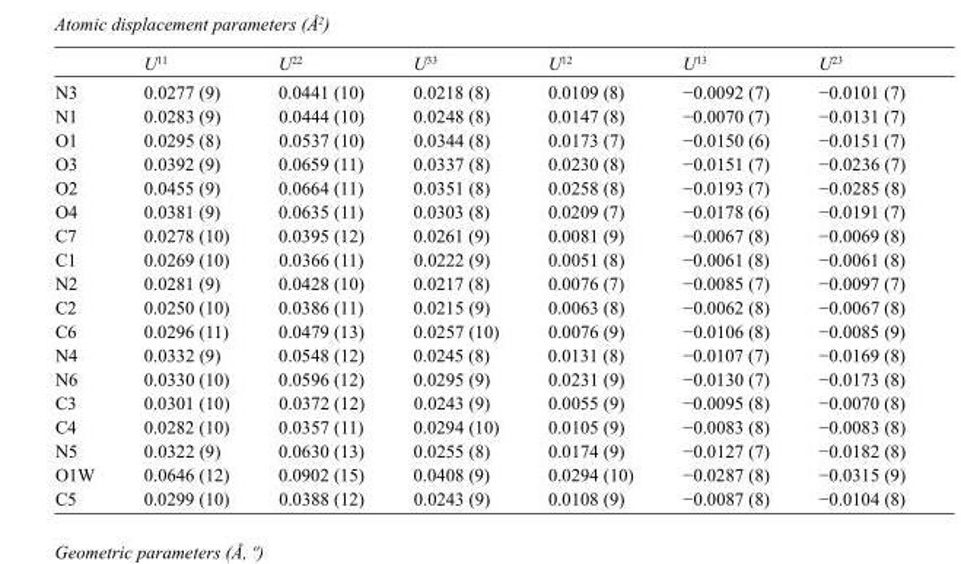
<table><thead><tr><td></td><td>U<sup>11</sup></td><td>U<sup>22</sup></td><td>U<sup>33</sup></td><td>U<sup>12</sup></td><td>U<sup>13</sup></td><td>U<sup>23</sup></td></tr></thead><tbody><tr><td>N3</td><td>0.0277 (9)</td><td>0.0441 (10)</td><td>0.0218 (8)</td><td>0.0109 (8)</td><td>−0.0092 (7)</td><td>−0.0101 (7)</td></tr><tr><td>N1</td><td>0.0283 (9)</td><td>0.0444 (10)</td><td>0.0248 (8)</td><td>0.0147 (8)</td><td>−0.0070 (7)</td><td>−0.0131 (7)</td></tr><tr><td>O1</td><td>0.0295 (8)</td><td>0.0537 (10)</td><td>0.0344 (8)</td><td>0.0173 (7)</td><td>−0.0150 (6)</td><td>−0.0151 (7)</td></tr><tr><td>O3</td><td>0.0392 (9)</td><td>0.0659 (11)</td><td>0.0337 (8)</td><td>0.0230 (8)</td><td>−0.0151 (7)</td><td>−0.0236 (7)</td></tr><tr><td>O2</td><td>0.0455 (9)</td><td>0.0664 (11)</td><td>0.0351 (8)</td><td>0.0258 (8)</td><td>−0.0193 (7)</td><td>−0.0285 (8)</td></tr><tr><td>O4</td><td>0.0381 (9)</td><td>0.0635 (11)</td><td>0.0303 (8)</td><td>0.0209 (7)</td><td>−0.0178 (6)</td><td>−0.0191 (7)</td></tr><tr><td>C7</td><td>0.0278 (10)</td><td>0.0395 (12)</td><td>0.0261 (9)</td><td>0.0081 (9)</td><td>−0.0067 (8)</td><td>−0.0069 (8)</td></tr><tr><td>C1</td><td>0.0269 (10)</td><td>0.0366 (11)</td><td>0.0222 (9)</td><td>0.0051 (8)</td><td>−0.0061 (8)</td><td>−0.0061 (8)</td></tr><tr><td>N2</td><td>0.0281 (9)</td><td>0.0428 (10)</td><td>0.0217 (8)</td><td>0.0076 (7)</td><td>−0.0085 (7)</td><td>−0.0097 (7)</td></tr><tr><td>C2</td><td>0.0250 (10)</td><td>0.0386 (11)</td><td>0.0215 (9)</td><td>0.0063 (8)</td><td>−0.0062 (8)</td><td>−0.0067 (8)</td></tr><tr><td>C6</td><td>0.0296 (11)</td><td>0.0479 (13)</td><td>0.0257 (10)</td><td>0.0076 (9)</td><td>−0.0106 (8)</td><td>−0.0085 (9)</td></tr><tr><td>N4</td><td>0.0332 (9)</td><td>0.0548 (12)</td><td>0.0245 (8)</td><td>0.0131 (8)</td><td>−0.0107 (7)</td><td>−0.0169 (8)</td></tr><tr><td>N6</td><td>0.0330 (10)</td><td>0.0596 (12)</td><td>0.0295 (9)</td><td>0.0231 (9)</td><td>−0.0130 (7)</td><td>−0.0173 (8)</td></tr><tr><td>C3</td><td>0.0301 (10)</td><td>0.0372 (12)</td><td>0.0243 (9)</td><td>0.0055 (9)</td><td>−0.0095 (8)</td><td>−0.0070 (8)</td></tr><tr><td>C4</td><td>0.0282 (10)</td><td>0.0357 (11)</td><td>0.0294 (10)</td><td>0.0105 (9)</td><td>−0.0083 (8)</td><td>−0.0083 (8)</td></tr><tr><td>N5</td><td>0.0322 (9)</td><td>0.0630 (13)</td><td>0.0255 (8)</td><td>0.0174 (9)</td><td>−0.0127 (7)</td><td>−0.0182 (8)</td></tr><tr><td>O1W</td><td>0.0646 (12)</td><td>0.0902 (15)</td><td>0.0408 (9)</td><td>0.0294 (10)</td><td>−0.0287 (8)</td><td>−0.0315 (9)</td></tr><tr><td>C5</td><td>0.0299 (10)</td><td>0.0388 (12)</td><td>0.0243 (9)</td><td>0.0108 (9)</td><td>−0.0087 (8)</td><td>−0.0104 (8)</td></tr></tbody></table>